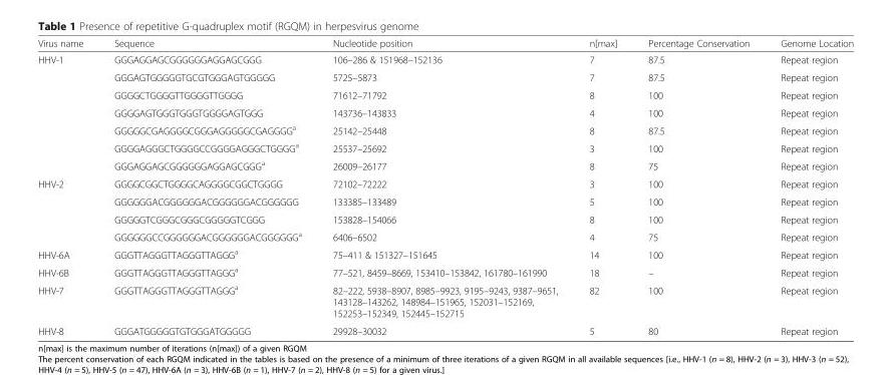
<table><thead><tr><td>Virus name</td><td>Sequence</td><td>Nucleotide position</td><td>n[max]</td><td>Percentage Conservation</td><td>Genome Location</td></tr></thead><tbody><tr><td rowspan="7">HHV-1</td><td>GGGAGGAGCGGGGGGAGGAGCGGG</td><td>106–286 &amp; 151968–152136</td><td>7</td><td>87.5</td><td>Repeat region</td></tr><tr><td>GGGAGTGGGGGTGCGTGGGAGTGGGGG</td><td>5725–5873</td><td>7</td><td>87.5</td><td>Repeat region</td></tr><tr><td>GGGGCTGGGGTTGGGGTTGGGG</td><td>71612–71792</td><td>8</td><td>100</td><td>Repeat region</td></tr><tr><td>GGGGAGTGGGTGGGTGGGGAGTGGG</td><td>143736–143833</td><td>4</td><td>100</td><td>Repeat region</td></tr><tr><td>GGGGGCGAGGGGCGGGAGGGGGCGAGGGG<sup>a</sup></td><td>25142–25448</td><td>8</td><td>87.5</td><td>Repeat region</td></tr><tr><td>GGGGAGGGCTGGGGCCGGGGAGGGCTGGGG<sup>a</sup></td><td>25537–25692</td><td>3</td><td>100</td><td>Repeat region</td></tr><tr><td>GGGAGGAGCGGGGGGAGGAGCGGG<sup>a</sup></td><td>26009–26177</td><td>8</td><td>75</td><td>Repeat region</td></tr><tr><td rowspan="4">HHV-2</td><td>GGGGCGGCTGGGGCAGGGGCGGCTGGGG</td><td>72102–72222</td><td>3</td><td>100</td><td>Repeat region</td></tr><tr><td>GGGGGGACGGGGGGACGGGGGGACGGGGGG</td><td>133385–133489</td><td>5</td><td>100</td><td>Repeat region</td></tr><tr><td>GGGGGTCGGGCGGGCGGGGGTCGGG</td><td>153828–154066</td><td>8</td><td>100</td><td>Repeat region</td></tr><tr><td>GGGGGGCCGGGGGGACGGGGGGACGGGGGG<sup>a</sup></td><td>6406–6502</td><td>4</td><td>75</td><td>Repeat region</td></tr><tr><td>HHV-6A</td><td>GGGTTAGGGTTAGGGTTAGGG<sup>a</sup></td><td>75–411 &amp; 151327–151645</td><td>14</td><td>100</td><td>Repeat region</td></tr><tr><td>HHV-6B</td><td>GGGTTAGGGTTAGGGTTAGGG<sup>a</sup></td><td>77–521, 8459–8669, 153410–153842, 161780–161990</td><td>18</td><td>–</td><td>Repeat region</td></tr><tr><td>HHV-7</td><td>GGGTTAGGGTTAGGGTTAGGG<sup>a</sup></td><td>82–222, 5938–8907, 8985–9923, 9195–9243, 9387–9651, 143128–143262, 148984–151965, 152031–152169, 152253–152349, 152445–152715</td><td>82</td><td>100</td><td>Repeat region</td></tr><tr><td>HHV-8</td><td>GGGATGGGGGTGTGGGATGGGGG</td><td>29928–30032</td><td>5</td><td>80</td><td>Repeat region</td></tr></tbody></table>